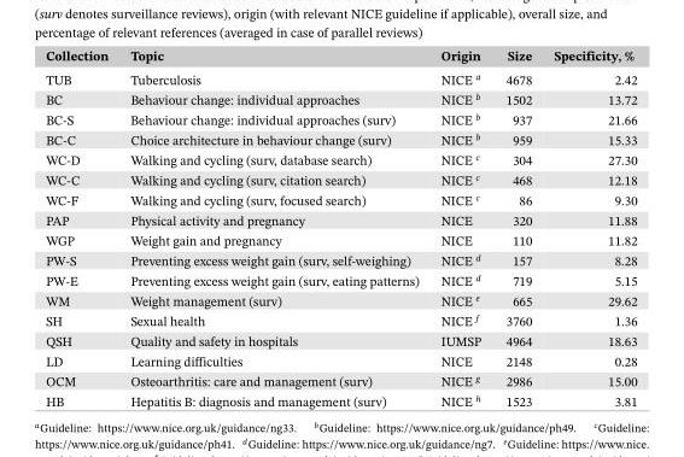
<table><thead><tr><td>Collection</td><td>Topic</td><td>Origin</td><td>Size</td><td>Specificity, %</td></tr></thead><tbody><tr><td>TUB</td><td>Tuberculosis</td><td>NICE <sup>a</sup></td><td>4678</td><td>2.42</td></tr><tr><td>BC</td><td>Behaviour change: individual approaches</td><td>NICE <sup>b</sup></td><td>1502</td><td>13.72</td></tr><tr><td>BC-S</td><td>Behaviour change: individual approaches (surv)</td><td>NICE <sup>b</sup></td><td>937</td><td>21.66</td></tr><tr><td>BC-C</td><td>Choice architecture in behaviour change (surv)</td><td>NICE <sup>b</sup></td><td>959</td><td>15.33</td></tr><tr><td>WC-D</td><td>Walking and cycling (surv, database search)</td><td>NICE <sup>c</sup></td><td>304</td><td>27.30</td></tr><tr><td>WC-C</td><td>Walking and cycling (surv, citation search)</td><td>NICE <sup>c</sup></td><td>468</td><td>12.18</td></tr><tr><td>WC-F</td><td>Walking and cycling (surv, focused search)</td><td>NICE <sup>c</sup></td><td>86</td><td>9.30</td></tr><tr><td>PAP</td><td>Physical activity and pregnancy</td><td>NICE</td><td>320</td><td>11.88</td></tr><tr><td>WGP</td><td>Weight gain and pregnancy</td><td>NICE</td><td>110</td><td>11.82</td></tr><tr><td>PW-S</td><td>Preventing excess weight gain (surv, self-weighing)</td><td>NICE <sup>d</sup></td><td>157</td><td>8.28</td></tr><tr><td>PW-E</td><td>Preventing excess weight gain (surv, eating patterns)</td><td>NICE <sup>d</sup></td><td>719</td><td>5.15</td></tr><tr><td>WM</td><td>Weight management (surv)</td><td>NICE <sup>e</sup></td><td>665</td><td>29.62</td></tr><tr><td>SH</td><td>Sexual health</td><td>NICE <sup>f</sup></td><td>3760</td><td>1.36</td></tr><tr><td>QSH</td><td>Quality and safety in hospitals</td><td>IUMSP</td><td>4964</td><td>18.63</td></tr><tr><td>LD</td><td>Learning difficulties</td><td>NICE</td><td>2148</td><td>0.28</td></tr><tr><td>OCM</td><td>Osteoarthritis: care and management (surv)</td><td>NICE <sup>g</sup></td><td>2986</td><td>15.00</td></tr><tr><td>HB</td><td>Hepatitis B: diagnosis and management (surv)</td><td>NICE <sup>h</sup></td><td>1523</td><td>3.81</td></tr></tbody></table>